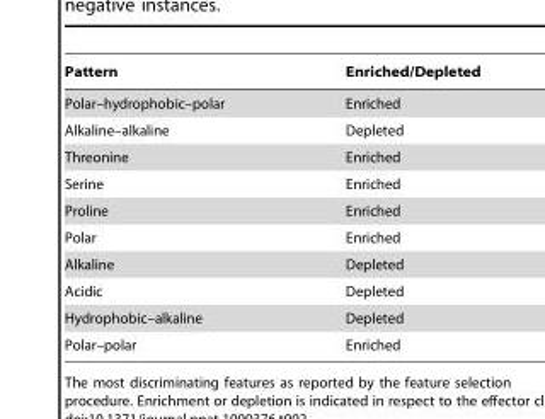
<table><thead><tr><td>Pattern</td><td>Enriched/Depleted</td></tr></thead><tbody><tr><td>Polar–hydrophobic–polar</td><td>Enriched</td></tr><tr><td>Alkaline–alkaline</td><td>Depleted</td></tr><tr><td>Threonine</td><td>Enriched</td></tr><tr><td>Serine</td><td>Enriched</td></tr><tr><td>Proline</td><td>Enriched</td></tr><tr><td>Polar</td><td>Enriched</td></tr><tr><td>Alkaline</td><td>Depleted</td></tr><tr><td>Acidic</td><td>Depleted</td></tr><tr><td>Hydrophobic–alkaline</td><td>Depleted</td></tr><tr><td>Polar–polar</td><td>Enriched</td></tr></tbody></table>